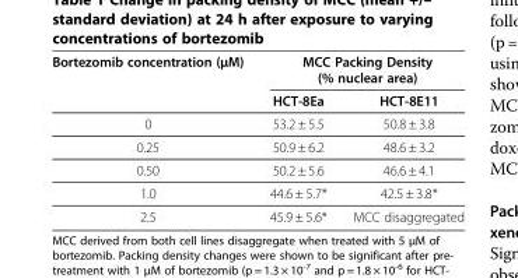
<table><thead><tr><td rowspan="2">Bortezomib concentration (μM)</td><td colspan="2">MCC Packing Density (% nuclear area)</td></tr><tr><td>HCT-8Ea</td><td>HCT-8E11</td></tr></thead><tbody><tr><td>0</td><td>53.2 ± 5.5</td><td>50.8 ± 3.8</td></tr><tr><td>0.25</td><td>50.9 ± 6.2</td><td>48.6 ± 3.2</td></tr><tr><td>0.50</td><td>50.2 ± 5.6</td><td>46.6 ± 4.1</td></tr><tr><td>1.0</td><td>44.6 ± 5.7*</td><td>42.5 ± 3.8*</td></tr><tr><td>2.5</td><td>45.9 ± 5.6*</td><td>MCC disaggregated</td></tr></tbody></table>